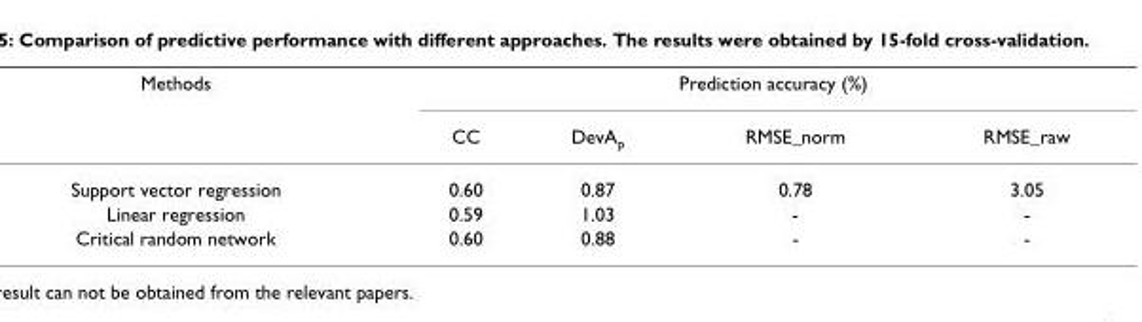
<table><thead><tr><td rowspan="2">Methods</td><td colspan="4">Prediction accuracy (%)</td></tr><tr><td>CC</td><td>DevA<sub>p</sub></td><td>RMSE_norm</td><td>RMSE_raw</td></tr></thead><tbody><tr><td>Support vector regression</td><td>0.60</td><td>0.87</td><td>0.78</td><td>3.05</td></tr><tr><td>Linear regression</td><td>0.59</td><td>1.03</td><td>-</td><td>-</td></tr><tr><td>Critical random network</td><td>0.60</td><td>0.88</td><td>-</td><td>-</td></tr></tbody></table>